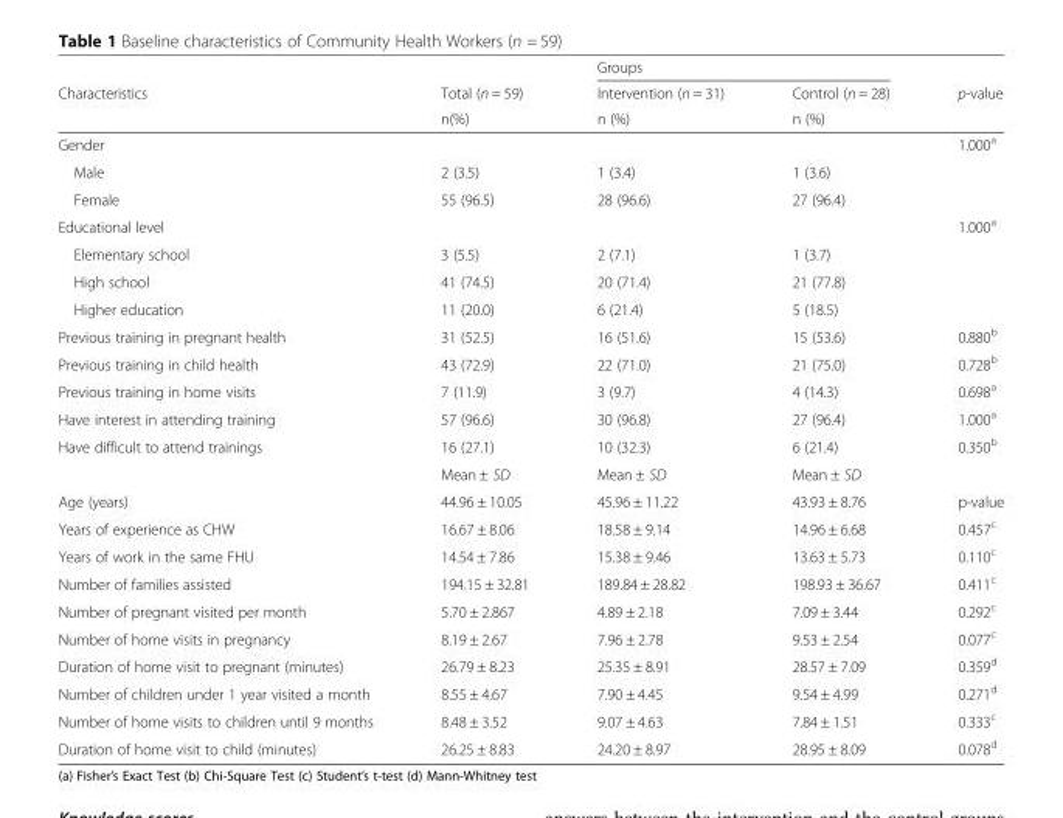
<table><thead><tr><td rowspan="3">Characteristics</td><td rowspan="3">Total (n = 59) n(%)</td><td colspan="2">Groups</td><td rowspan="3">p-value</td></tr><tr><td rowspan="2">Intervention (n = 31) n (%)</td><td rowspan="2">Control (n = 28) n (%)</td></tr><tr></tr></thead><tbody><tr><td>Gender</td><td></td><td></td><td></td><td>1.000<sup>a</sup></td></tr><tr><td>Male</td><td>2 (3.5)</td><td>1 (3.4)</td><td>1 (3.6)</td><td></td></tr><tr><td>Female</td><td>55 (96.5)</td><td>28 (96.6)</td><td>27 (96.4)</td><td></td></tr><tr><td>Educational level</td><td></td><td></td><td></td><td>1.000<sup>a</sup></td></tr><tr><td>Elementary school</td><td>3 (5.5)</td><td>2 (7.1)</td><td>1 (3.7)</td><td></td></tr><tr><td>High school</td><td>41 (74.5)</td><td>20 (71.4)</td><td>21 (77.8)</td><td></td></tr><tr><td>Higher education</td><td>11 (20.0)</td><td>6 (21.4)</td><td>5 (18.5)</td><td></td></tr><tr><td>Previous training in pregnant health</td><td>31 (52.5)</td><td>16 (51.6)</td><td>15 (53.6)</td><td>0.880<sup>b</sup></td></tr><tr><td>Previous training in child health</td><td>43 (72.9)</td><td>22 (71.0)</td><td>21 (75.0)</td><td>0.728<sup>b</sup></td></tr><tr><td>Previous training in home visits</td><td>7 (11.9)</td><td>3 (9.7)</td><td>4 (14.3)</td><td>0.698<sup>a</sup></td></tr><tr><td>Have interest in attending training</td><td>57 (96.6)</td><td>30 (96.8)</td><td>27 (96.4)</td><td>1.000<sup>a</sup></td></tr><tr><td rowspan="2">Have difficult to attend trainings</td><td>16 (27.1)</td><td>10 (32.3)</td><td>6 (21.4)</td><td>0.350<sup>b</sup></td></tr><tr><td>Mean ± SD</td><td>Mean ± SD</td><td>Mean ± SD</td><td></td></tr><tr><td>Age (years)</td><td>44.96 ± 10.05</td><td>45.96 ± 11.22</td><td>43.93 ± 8.76</td><td>p-value</td></tr><tr><td>Years of experience as CHW</td><td>16.67 ± 8.06</td><td>18.58 ± 9.14</td><td>14.96 ± 6.68</td><td>0.457<sup>c</sup></td></tr><tr><td>Years of work in the same FHU</td><td>14.54 ± 7.86</td><td>15.38 ± 9.46</td><td>13.63 ± 5.73</td><td>0.110<sup>c</sup></td></tr><tr><td>Number of families assisted</td><td>194.15 ± 32.81</td><td>189.84 ± 28.82</td><td>198.93 ± 36.67</td><td>0.411<sup>c</sup></td></tr><tr><td>Number of pregnant visited per month</td><td>5.70 ± 2.867</td><td>4.89 ± 2.18</td><td>7.09 ± 3.44</td><td>0.292<sup>c</sup></td></tr><tr><td>Number of home visits in pregnancy</td><td>8.19 ± 2.67</td><td>7.96 ± 2.78</td><td>9.53 ± 2.54</td><td>0.077<sup>c</sup></td></tr><tr><td>Duration of home visit to pregnant (minutes)</td><td>26.79 ± 8.23</td><td>25.35 ± 8.91</td><td>28.57 ± 7.09</td><td>0.359<sup>d</sup></td></tr><tr><td>Number of children under 1 year visited a month</td><td>8.55 ± 4.67</td><td>7.90 ± 4.45</td><td>9.54 ± 4.99</td><td>0.271<sup>d</sup></td></tr><tr><td>Number of home visits to children until 9 months</td><td>8.48 ± 3.52</td><td>9.07 ± 4.63</td><td>7.84 ± 1.51</td><td>0.333<sup>c</sup></td></tr><tr><td>Duration of home visit to child (minutes)</td><td>26.25 ± 8.83</td><td>24.20 ± 8.97</td><td>28.95 ± 8.09</td><td>0.078<sup>d</sup></td></tr></tbody></table>